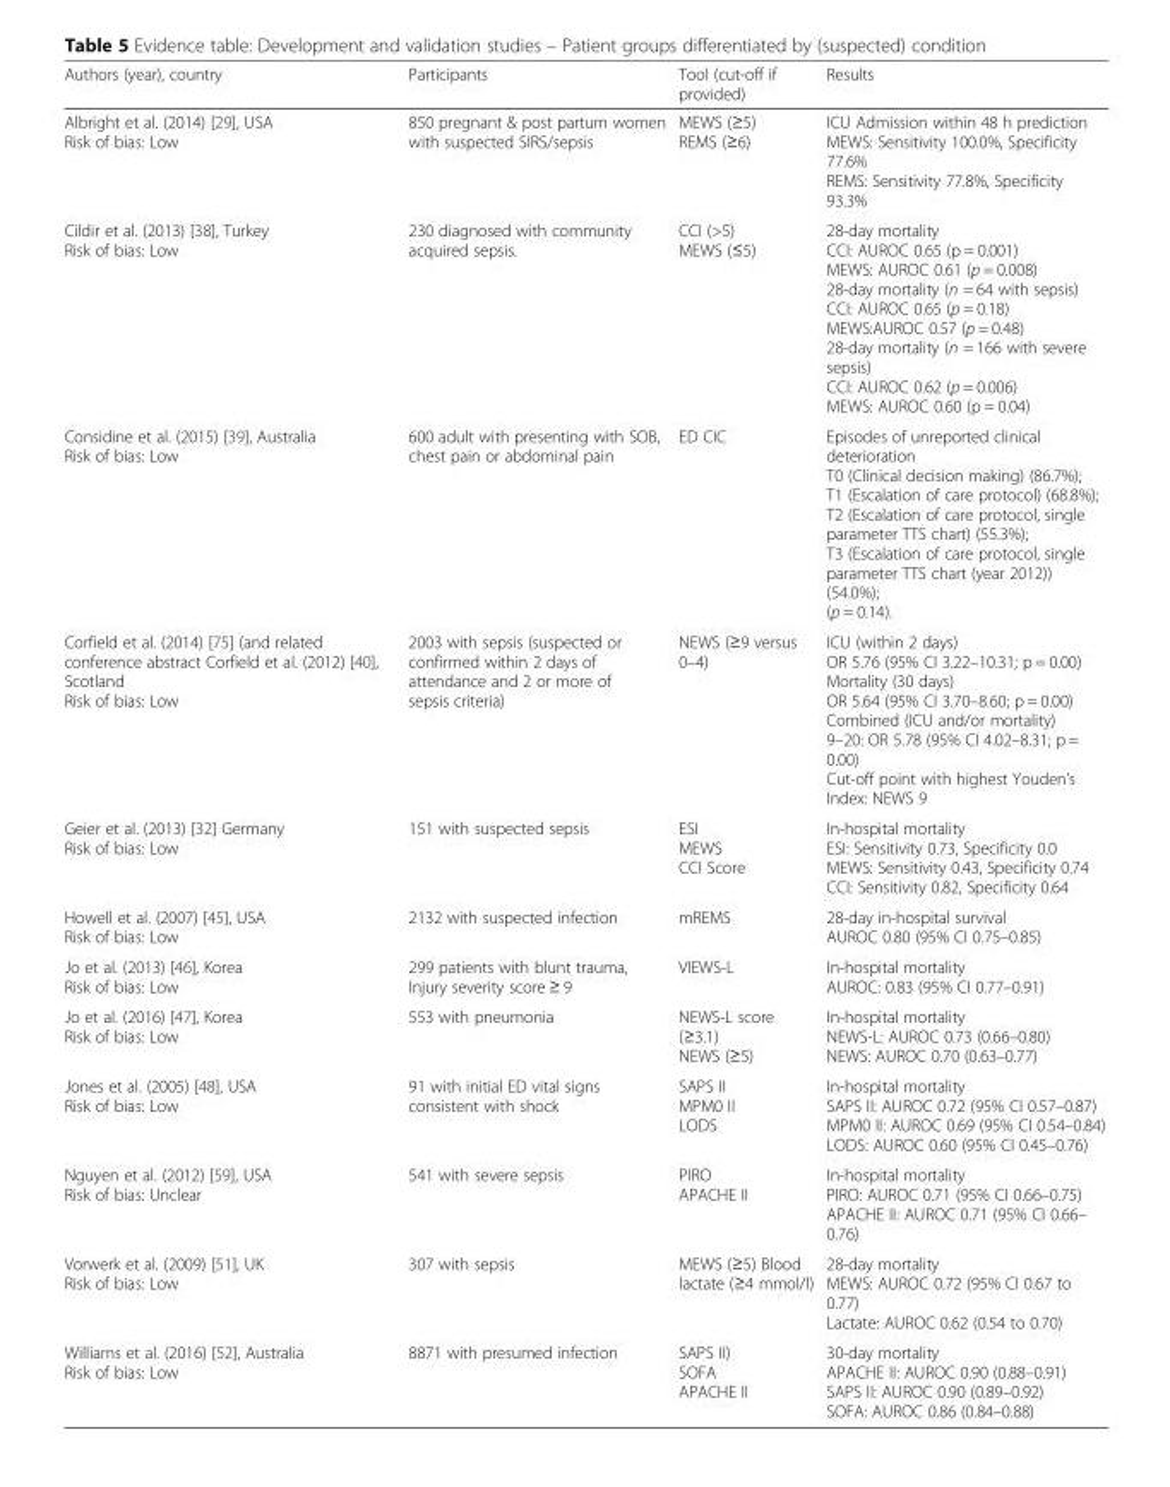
<table><thead><tr><td>Authors (year), country</td><td>Participants</td><td>Tool (cut-off if provided)</td><td>Results</td></tr></thead><tbody><tr><td>Albright et al. (2014) [29], USA Risk of bias: Low</td><td>850 pregnant &amp; post partum women with suspected SIRS/sepsis</td><td>MEWS (≥5) REMS (≥6)</td><td>ICU Admission within 48 h prediction MEWS: Sensitivity 100.0%, Specificity 77.6% REMS: Sensitivity 77.8%, Specificity 93.3%</td></tr><tr><td>Cildir et al. (2013) [38], Turkey Risk of bias: Low</td><td>230 diagnosed with community acquired sepsis.</td><td>CCI (&gt;5) MEWS (≤5)</td><td>28-day mortality CCI: AUROC 0.65 (p = 0.001) MEWS: AUROC 0.61 (p = 0.008) 28-day mortality (n = 64 with sepsis) CCI: AUROC 0.65 (p = 0.18) MEWS:AUROC 0.57 (p = 0.48) 28-day mortality (n = 166 with severe sepsis) CCI: AUROC 0.62 (p = 0.006) MEWS: AUROC 0.60 (p = 0.04)</td></tr><tr><td>Considine et al. (2015) [39], Australia Risk of bias: Low</td><td>600 adult with presenting with SOB, chest pain or abdominal pain</td><td>ED CIC</td><td>Episodes of unreported clinical deterioration T0 (Clinical decision making) (86.7%); T1 (Escalation of care protocol) (68.8%); T2 (Escalation of care protocol, single parameter TTS chart) (55.3%); T3 (Escalation of care protocol, single parameter TTS chart (year 2012)) (54.0%); (p = 0.14).</td></tr><tr><td>Corfield et al. (2014) [75] (and related conference abstract Corfield et al. (2012) [40], Scotland Risk of bias: Low</td><td>2003 with sepsis (suspected or confirmed within 2 days of attendance and 2 or more of sepsis criteria)</td><td>NEWS (≥9 versus 0–4)</td><td>ICU (within 2 days) OR 5.76 (95% CI 3.22–10.31; p = 0.00) Mortality (30 days) OR 5.64 (95% CI 3.70–8.60; p = 0.00) Combined (ICU and/or mortality) 9–20: OR 5.78 (95% CI 4.02–8.31; p = 0.00) Cut-off point with highest Youden’s Index: NEWS 9</td></tr><tr><td>Geier et al. (2013) [32] Germany Risk of bias: Low</td><td>151 with suspected sepsis</td><td>ESI MEWS CCI Score</td><td>In-hospital mortality ESI: Sensitivity 0.73, Specificity 0.0 MEWS: Sensitivity 0.43, Specificity 0.74 CCI: Sensitivity 0.82, Specificity 0.64</td></tr><tr><td>Howell et al. (2007) [45], USA Risk of bias: Low</td><td>2132 with suspected infection</td><td>mREMS</td><td>28-day in-hospital survival AUROC 0.80 (95% CI 0.75–0.85)</td></tr><tr><td>Jo et al. (2013) [46], Korea Risk of bias: Low</td><td>299 patients with blunt trauma, Injury severity score ≥ 9</td><td>VIEWS-L</td><td>In-hospital mortality AUROC: 0.83 (95% CI 0.77–0.91)</td></tr><tr><td>Jo et al. (2016) [47], Korea Risk of bias: Low</td><td>553 with pneumonia</td><td>NEWS-L score (≥3.1) NEWS (≥5)</td><td>In-hospital mortality NEWS-L: AUROC 0.73 (0.66–0.80) NEWS: AUROC 0.70 (0.63–0.77)</td></tr><tr><td>Jones et al. (2005) [48], USA Risk of bias: Low</td><td>91 with initial ED vital signs consistent with shock</td><td>SAPS II MPM0 II LODS</td><td>In-hospital mortality SAPS II: AUROC 0.72 (95% CI 0.57–0.87) MPM0 II: AUROC 0.69 (95% CI 0.54–0.84) LODS: AUROC 0.60 (95% CI 0.45–0.76)</td></tr><tr><td>Nguyen et al. (2012) [59], USA Risk of bias: Unclear</td><td>541 with severe sepsis</td><td>PIRO APACHE II</td><td>In-hospital mortality PIRO: AUROC 0.71 (95% CI 0.66–0.75) APACHE II: AUROC 0.71 (95% CI 0.66– 0.76)</td></tr><tr><td>Vorwerk et al. (2009) [51], UK Risk of bias: Low</td><td>307 with sepsis</td><td>MEWS (≥5) Blood lactate (≥4 mmol/l)</td><td>28-day mortality MEWS: AUROC 0.72 (95% CI 0.67 to 0.77) Lactate: AUROC 0.62 (0.54 to 0.70)</td></tr><tr><td>Williams et al. (2016) [52], Australia Risk of bias: Low</td><td>8871 with presumed infection</td><td>SAPS II) SOFA APACHE II</td><td>30-day mortality APACHE II: AUROC 0.90 (0.88–0.91) SAPS II: AUROC 0.90 (0.89–0.92) SOFA: AUROC 0.86 (0.84–0.88)</td></tr></tbody></table>